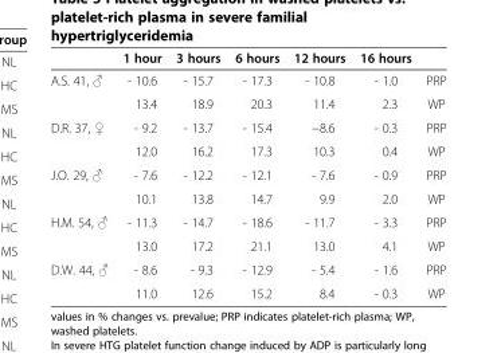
<table><thead><tr><td></td><td>1 hour</td><td>3 hours</td><td>6 hours</td><td>12 hours</td><td>16 hours</td><td></td></tr></thead><tbody><tr><td rowspan="2">A.S. 41, ♂</td><td>- 10.6</td><td>- 15.7</td><td>- 17.3</td><td>- 10.8</td><td>- 1.0</td><td>PRP</td></tr><tr><td>13.4</td><td>18.9</td><td>20.3</td><td>11.4</td><td>2.3</td><td>WP</td></tr><tr><td rowspan="2">D.R. 37, ♀</td><td>- 9.2</td><td>- 13.7</td><td>- 15.4</td><td>−8.6</td><td>- 0.3</td><td>PRP</td></tr><tr><td>12.0</td><td>16.2</td><td>17.3</td><td>10.3</td><td>0.4</td><td>WP</td></tr><tr><td rowspan="2">J.O. 29, ♂</td><td>- 7.6</td><td>- 12.2</td><td>- 12.1</td><td>- 7.6</td><td>- 0.9</td><td>PRP</td></tr><tr><td>10.1</td><td>13.8</td><td>14.7</td><td>9.9</td><td>2.0</td><td>WP</td></tr><tr><td rowspan="2">H.M. 54, ♂</td><td>- 11.3</td><td>- 14.7</td><td>- 18.6</td><td>- 11.7</td><td>- 3.3</td><td>PRP</td></tr><tr><td>13.0</td><td>17.2</td><td>21.1</td><td>13.0</td><td>4.1</td><td>WP</td></tr><tr><td rowspan="2">D.W. 44, ♂</td><td>- 8.6</td><td>- 9.3</td><td>- 12.9</td><td>- 5.4</td><td>- 1.6</td><td>PRP</td></tr><tr><td>11.0</td><td>12.6</td><td>15.2</td><td>8.4</td><td>- 0.3</td><td>WP</td></tr></tbody></table>